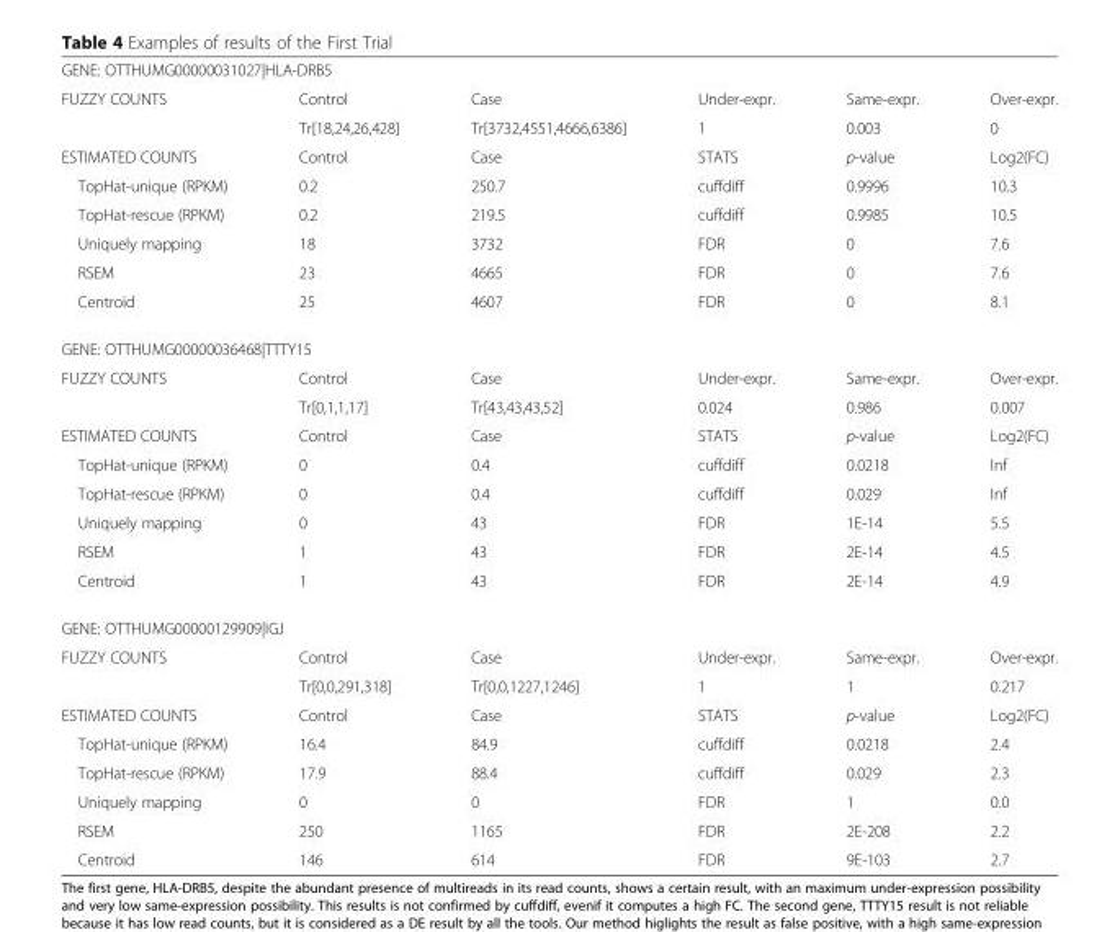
<table><tbody><tr><td colspan="6">GENE: OTTHUMG00000031027|HLA-DRB5</td></tr><tr><td rowspan="2">FUZZY COUNTS</td><td>Control</td><td>Case</td><td>Under-expr.</td><td>Same-expr.</td><td>Over-expr.</td></tr><tr><td>Tr[18,24,26,428]</td><td>Tr[3732,4551,4666,6386]</td><td>1</td><td>0.003</td><td>0</td></tr><tr><td>ESTIMATED COUNTS</td><td>Control</td><td>Case</td><td>STATS</td><td>p-value</td><td>Log2(FC)</td></tr><tr><td>TopHat-unique (RPKM)</td><td>0.2</td><td>250.7</td><td>cuffdiff</td><td>0.9996</td><td>10.3</td></tr><tr><td>TopHat-rescue (RPKM)</td><td>0.2</td><td>219.5</td><td>cuffdiff</td><td>0.9985</td><td>10.5</td></tr><tr><td>Uniquely mapping</td><td>18</td><td>3732</td><td>FDR</td><td>0</td><td>7.6</td></tr><tr><td>RSEM</td><td>23</td><td>4665</td><td>FDR</td><td>0</td><td>7.6</td></tr><tr><td>Centroid</td><td>25</td><td>4607</td><td>FDR</td><td>0</td><td>8.1</td></tr><tr><td colspan="6">GENE: OTTHUMG00000036468|TTTY15</td></tr><tr><td rowspan="2">FUZZY COUNTS</td><td>Control</td><td>Case</td><td>Under-expr.</td><td>Same-expr.</td><td>Over-expr.</td></tr><tr><td>Tr[0,1,1,17]</td><td>Tr[43,43,43,52]</td><td>0.024</td><td>0.986</td><td>0.007</td></tr><tr><td>ESTIMATED COUNTS</td><td>Control</td><td>Case</td><td>STATS</td><td>p-value</td><td>Log2(FC)</td></tr><tr><td>TopHat-unique (RPKM)</td><td>0</td><td>0.4</td><td>cuffdiff</td><td>0.0218</td><td>Inf</td></tr><tr><td>TopHat-rescue (RPKM)</td><td>0</td><td>0.4</td><td>cuffdiff</td><td>0.029</td><td>Inf</td></tr><tr><td>Uniquely mapping</td><td>0</td><td>43</td><td>FDR</td><td>1E-14</td><td>5.5</td></tr><tr><td>RSEM</td><td>1</td><td>43</td><td>FDR</td><td>2E-14</td><td>4.5</td></tr><tr><td>Centroid</td><td>1</td><td>43</td><td>FDR</td><td>2E-14</td><td>4.9</td></tr><tr><td colspan="6">GENE: OTTHUMG00000129909|IGJ</td></tr><tr><td rowspan="2">FUZZY COUNTS</td><td>Control</td><td>Case</td><td>Under-expr.</td><td>Same-expr.</td><td>Over-expr.</td></tr><tr><td>Tr[0,0,291,318]</td><td>Tr[0,0,1227,1246]</td><td>1</td><td>1</td><td>0.217</td></tr><tr><td>ESTIMATED COUNTS</td><td>Control</td><td>Case</td><td>STATS</td><td>p-value</td><td>Log2(FC)</td></tr><tr><td>TopHat-unique (RPKM)</td><td>16.4</td><td>84.9</td><td>cuffdiff</td><td>0.0218</td><td>2.4</td></tr><tr><td>TopHat-rescue (RPKM)</td><td>17.9</td><td>88.4</td><td>cuffdiff</td><td>0.029</td><td>2.3</td></tr><tr><td>Uniquely mapping</td><td>0</td><td>0</td><td>FDR</td><td>1</td><td>0.0</td></tr><tr><td>RSEM</td><td>250</td><td>1165</td><td>FDR</td><td>2E-208</td><td>2.2</td></tr><tr><td>Centroid</td><td>146</td><td>614</td><td>FDR</td><td>9E-103</td><td>2.7</td></tr></tbody></table>